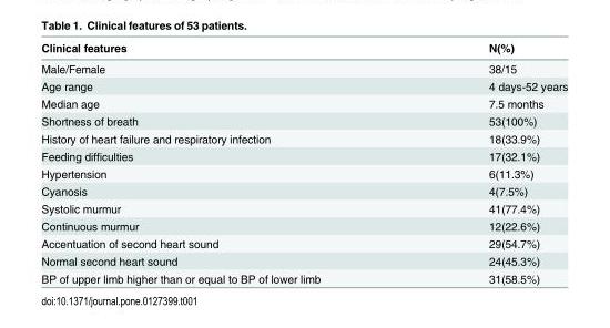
<table><thead><tr><td>Clinical features</td><td>N(%)</td></tr></thead><tbody><tr><td>Male/Female</td><td>38/15</td></tr><tr><td>Age range</td><td>4 days-52 years</td></tr><tr><td>Median age</td><td>7.5 months</td></tr><tr><td>Shortness of breath</td><td>53(100%)</td></tr><tr><td>History of heart failure and respiratory infection</td><td>18(33.9%)</td></tr><tr><td>Feeding difficulties</td><td>17(32.1%)</td></tr><tr><td>Hypertension</td><td>6(11.3%)</td></tr><tr><td>Cyanosis</td><td>4(7.5%)</td></tr><tr><td>Systolic murmur</td><td>41(77.4%)</td></tr><tr><td>Continuous murmur</td><td>12(22.6%)</td></tr><tr><td>Accentuation of second heart sound</td><td>29(54.7%)</td></tr><tr><td>Normal second heart sound</td><td>24(45.3%)</td></tr><tr><td>BP of upper limb higher than or equal to BP of lower limb</td><td>31(58.5%)</td></tr></tbody></table>